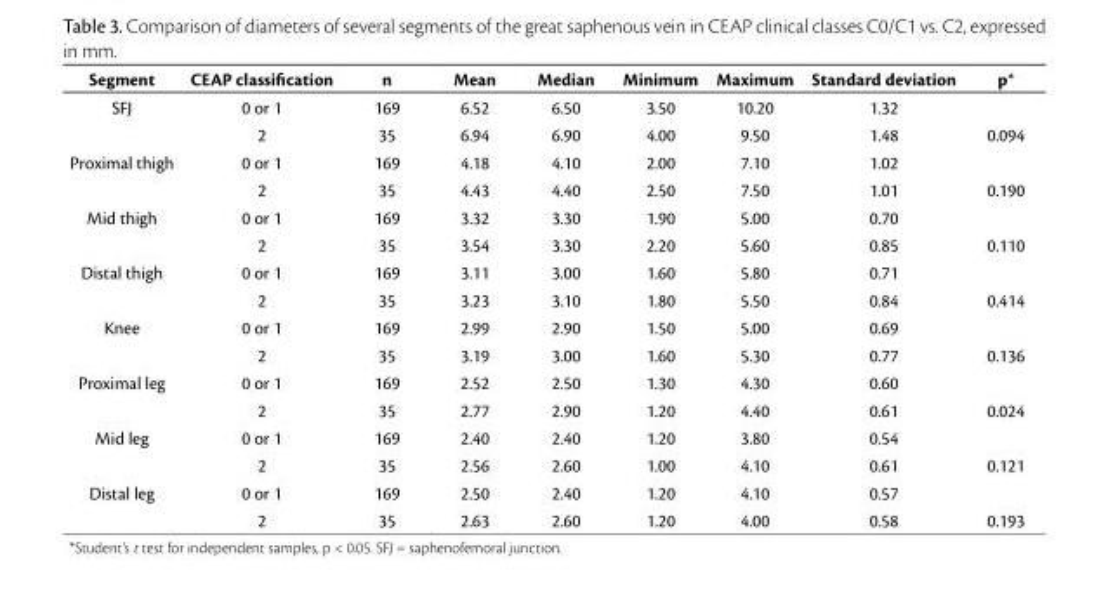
<table><thead><tr><td>Segment</td><td>CEAP classification</td><td>n</td><td>Mean</td><td>Median</td><td>Minimum</td><td>Maximum</td><td>Standard deviation</td><td>p*</td></tr></thead><tbody><tr><td rowspan="2">SFJ</td><td>0 or 1</td><td>169</td><td>6.52</td><td>6.50</td><td>3.50</td><td>10.20</td><td>1.32</td><td></td></tr><tr><td>2</td><td>35</td><td>6.94</td><td>6.90</td><td>4.00</td><td>9.50</td><td>1.48</td><td>0.094</td></tr><tr><td rowspan="2">Proximal thigh</td><td>0 or 1</td><td>169</td><td>4.18</td><td>4.10</td><td>2.00</td><td>7.10</td><td>1.02</td><td></td></tr><tr><td>2</td><td>35</td><td>4.43</td><td>4.40</td><td>2.50</td><td>7.50</td><td>1.01</td><td>0.190</td></tr><tr><td rowspan="2">Mid thigh</td><td>0 or 1</td><td>169</td><td>3.32</td><td>3.30</td><td>1.90</td><td>5.00</td><td>0.70</td><td></td></tr><tr><td>2</td><td>35</td><td>3.54</td><td>3.30</td><td>2.20</td><td>5.60</td><td>0.85</td><td>0.110</td></tr><tr><td rowspan="2">Distal thigh</td><td>0 or 1</td><td>169</td><td>3.11</td><td>3.00</td><td>1.60</td><td>5.80</td><td>0.71</td><td></td></tr><tr><td>2</td><td>35</td><td>3.23</td><td>3.10</td><td>1.80</td><td>5.50</td><td>0.84</td><td>0.414</td></tr><tr><td rowspan="2">Knee</td><td>0 or 1</td><td>169</td><td>2.99</td><td>2.90</td><td>1.50</td><td>5.00</td><td>0.69</td><td></td></tr><tr><td>2</td><td>35</td><td>3.19</td><td>3.00</td><td>1.60</td><td>5.30</td><td>0.77</td><td>0.136</td></tr><tr><td rowspan="2">Proximal leg</td><td>0 or 1</td><td>169</td><td>2.52</td><td>2.50</td><td>1.30</td><td>4.30</td><td>0.60</td><td></td></tr><tr><td>2</td><td>35</td><td>2.77</td><td>2.90</td><td>1.20</td><td>4.40</td><td>0.61</td><td>0.024</td></tr><tr><td rowspan="2">Mid leg</td><td>0 or 1</td><td>169</td><td>2.40</td><td>2.40</td><td>1.20</td><td>3.80</td><td>0.54</td><td></td></tr><tr><td>2</td><td>35</td><td>2.56</td><td>2.60</td><td>1.00</td><td>4.10</td><td>0.61</td><td>0.121</td></tr><tr><td rowspan="2">Distal leg</td><td>0 or 1</td><td>169</td><td>2.50</td><td>2.40</td><td>1.20</td><td>4.10</td><td>0.57</td><td></td></tr><tr><td>2</td><td>35</td><td>2.63</td><td>2.60</td><td>1.20</td><td>4.00</td><td>0.58</td><td>0.193</td></tr></tbody></table>